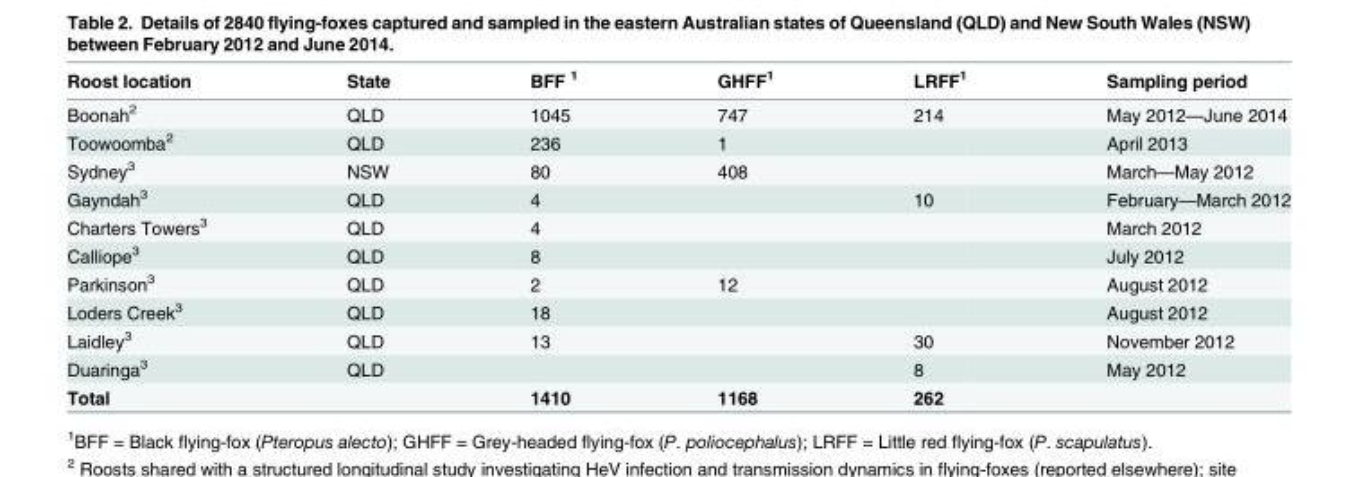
<table><thead><tr><td>Roost location</td><td>State</td><td>BFF <sup>1</sup></td><td>GHFF<sup>1</sup></td><td>LRFF<sup>1</sup></td><td>Sampling period</td></tr></thead><tbody><tr><td>Boonah<sup>2</sup></td><td>QLD</td><td>1045</td><td>747</td><td>214</td><td>May 2012—June 2014</td></tr><tr><td>Toowoomba<sup>2</sup></td><td>QLD</td><td>236</td><td>1</td><td></td><td>April 2013</td></tr><tr><td>Sydney<sup>3</sup></td><td>NSW</td><td>80</td><td>408</td><td></td><td>March—May 2012</td></tr><tr><td>Gayndah<sup>3</sup></td><td>QLD</td><td>4</td><td></td><td>10</td><td>February—March 2012</td></tr><tr><td>Charters Towers<sup>3</sup></td><td>QLD</td><td>4</td><td></td><td></td><td>March 2012</td></tr><tr><td>Calliope<sup>3</sup></td><td>QLD</td><td>8</td><td></td><td></td><td>July 2012</td></tr><tr><td>Parkinson<sup>3</sup></td><td>QLD</td><td>2</td><td>12</td><td></td><td>August 2012</td></tr><tr><td>Loders Creek<sup>3</sup></td><td>QLD</td><td>18</td><td></td><td></td><td>August 2012</td></tr><tr><td>Laidley<sup>3</sup></td><td>QLD</td><td>13</td><td></td><td>30</td><td>November 2012</td></tr><tr><td>Duaringa<sup>3</sup></td><td>QLD</td><td></td><td></td><td>8</td><td>May 2012</td></tr><tr><td>Total</td><td></td><td>1410</td><td>1168</td><td>262</td><td></td></tr></tbody></table>